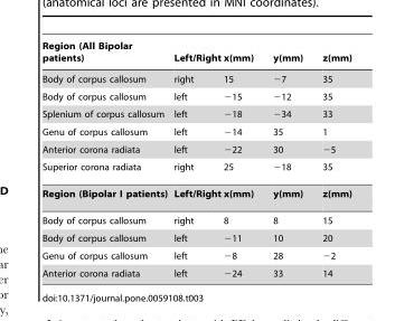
<table><thead><tr><td>Region (All Bipolar patients)</td><td>Left/Right</td><td>x(mm)</td><td>y(mm)</td><td>z(mm)</td></tr></thead><tbody><tr><td>Body of corpus callosum</td><td>right</td><td>15</td><td>−7</td><td>35</td></tr><tr><td>Body of corpus callosum</td><td>left</td><td>−15</td><td>−12</td><td>35</td></tr><tr><td>Splenium of corpus callosum</td><td>left</td><td>−18</td><td>−34</td><td>33</td></tr><tr><td>Genu of corpus callosum</td><td>left</td><td>−14</td><td>35</td><td>1</td></tr><tr><td>Anterior corona radiata</td><td>left</td><td>−22</td><td>30</td><td>−5</td></tr><tr><td>Superior corona radiata</td><td>right</td><td>25</td><td>−18</td><td>35</td></tr><tr><td>Region (Bipolar I patients)</td><td>Left/Right</td><td>x(mm)</td><td>y(mm)</td><td>z(mm)</td></tr><tr><td>Body of corpus callosum</td><td>right</td><td>8</td><td>8</td><td>15</td></tr><tr><td>Body of corpus callosum</td><td>left</td><td>−11</td><td>10</td><td>20</td></tr><tr><td>Genu of corpus callosum</td><td>left</td><td>−8</td><td>28</td><td>−2</td></tr><tr><td>Anterior corona radiata</td><td>left</td><td>−24</td><td>33</td><td>14</td></tr></tbody></table>